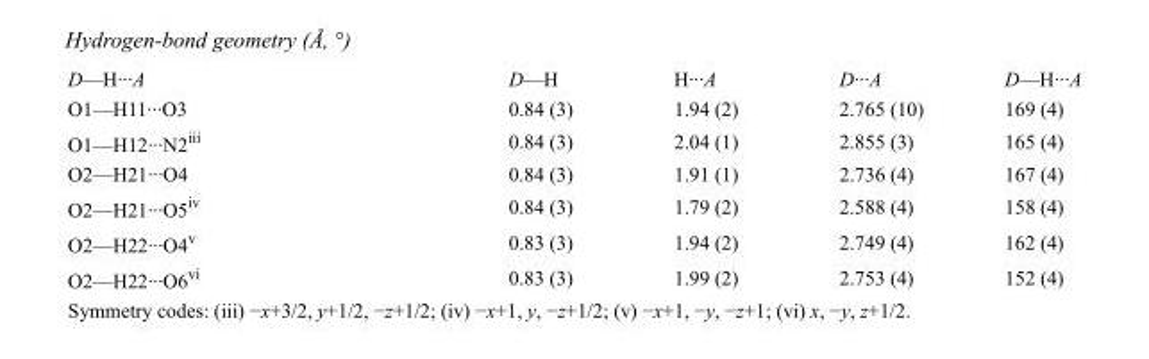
<table><tbody><tr><td>D—H···A</td><td>D—H</td><td>H···A</td><td>D···A</td><td>D—H···A</td></tr><tr><td>O1—H11···O3</td><td>0.84 (3)</td><td>1.94 (2)</td><td>2.765 (10)</td><td>169 (4)</td></tr><tr><td>O1—H12···N2<sup>iii</sup></td><td>0.84 (3)</td><td>2.04 (1)</td><td>2.855 (3)</td><td>165 (4)</td></tr><tr><td>O2—H21···O4</td><td>0.84 (3)</td><td>1.91 (1)</td><td>2.736 (4)</td><td>167 (4)</td></tr><tr><td>O2—H21···O5<sup>iv</sup></td><td>0.84 (3)</td><td>1.79 (2)</td><td>2.588 (4)</td><td>158 (4)</td></tr><tr><td>O2—H22···O4<sup>v</sup></td><td>0.83 (3)</td><td>1.94 (2)</td><td>2.749 (4)</td><td>162 (4)</td></tr><tr><td>O2—H22···O6<sup>vi</sup></td><td>0.83 (3)</td><td>1.99 (2)</td><td>2.753 (4)</td><td>152 (4)</td></tr></tbody></table>